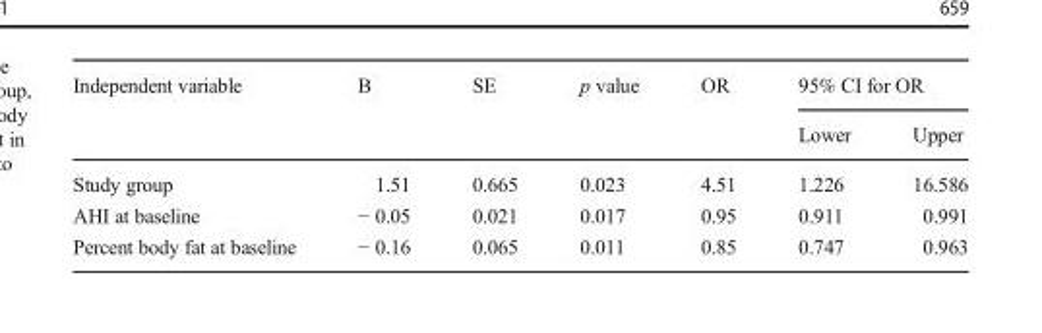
<table><thead><tr><td rowspan="2">Independent variable</td><td rowspan="2">B</td><td rowspan="2">SE</td><td rowspan="2">p value</td><td rowspan="2">OR</td><td colspan="2">95% CI for OR</td></tr><tr><td>Lower</td><td>Upper</td></tr></thead><tbody><tr><td>Study group</td><td>1.51</td><td>0.665</td><td>0.023</td><td>4.51</td><td>1.226</td><td>16.586</td></tr><tr><td>AHI at baseline</td><td>− 0.05</td><td>0.021</td><td>0.017</td><td>0.95</td><td>0.911</td><td>0.991</td></tr><tr><td>Percent body fat at baseline</td><td>− 0.16</td><td>0.065</td><td>0.011</td><td>0.85</td><td>0.747</td><td>0.963</td></tr></tbody></table>